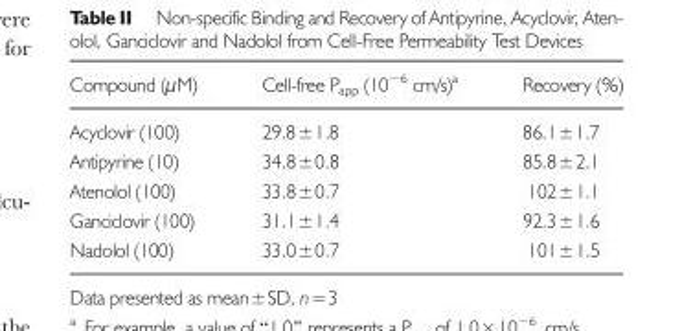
<table><thead><tr><td>Compound (μM)</td><td>Cell-free P<sub>app</sub> (10<sup>−6</sup> cm/s)<sup>a</sup></td><td>Recovery (%)</td></tr></thead><tbody><tr><td>Acyclovir (100)</td><td>29.8±1.8</td><td>86.1±1.7</td></tr><tr><td>Antipyrine (10)</td><td>34.8±0.8</td><td>85.8±2.1</td></tr><tr><td>Atenolol (100)</td><td>33.8±0.7</td><td>102±1.1</td></tr><tr><td>Ganciclovir (100)</td><td>31.1±1.4</td><td>92.3±1.6</td></tr><tr><td>Nadolol (100)</td><td>33.0±0.7</td><td>101±1.5</td></tr></tbody></table>